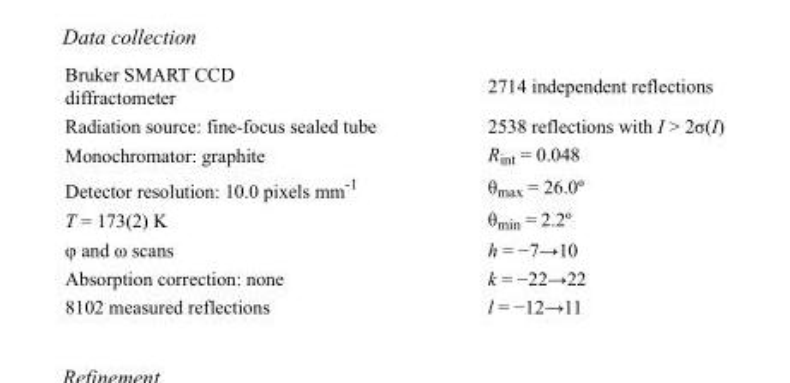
<table><tbody><tr><td>Bruker SMART CCD diffractometer</td><td>2714 independent reflections</td></tr><tr><td>Radiation source: fine-focus sealed tube</td><td>2538 reflections with I &gt; 2σ(I)</td></tr><tr><td>Monochromator: graphite</td><td>R<sub>int</sub> = 0.048</td></tr><tr><td>Detector resolution: 10.0 pixels mm<sup>-1</sup></td><td>θ<sub>max</sub> = 26.0º</td></tr><tr><td>T = 173(2) K</td><td>θ<sub>min</sub> = 2.2º</td></tr><tr><td>φ and ω scans</td><td>h = −7→10</td></tr><tr><td>Absorption correction: none</td><td>k = −22→22</td></tr><tr><td>8102 measured reflections</td><td>l = −12→11</td></tr></tbody></table>